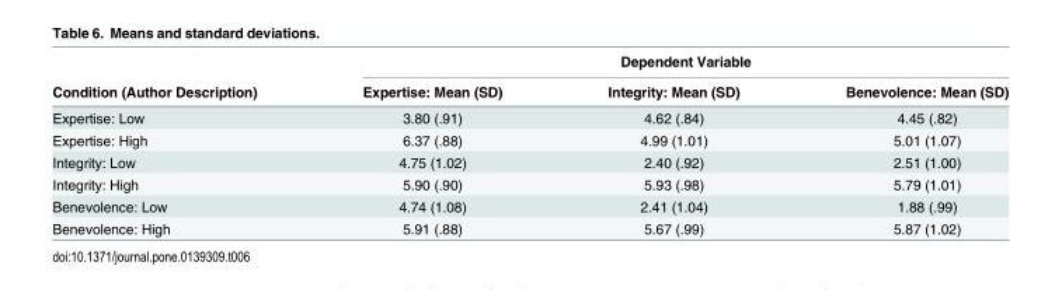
<table><thead><tr><td rowspan="2">Condition (Author Description)</td><td colspan="3">Dependent Variable</td></tr><tr><td>Expertise: Mean (SD)</td><td>Integrity: Mean (SD)</td><td>Benevolence: Mean (SD)</td></tr></thead><tbody><tr><td>Expertise: Low</td><td>3.80 (.91)</td><td>4.62 (.84)</td><td>4.45 (.82)</td></tr><tr><td>Expertise: High</td><td>6.37 (.88)</td><td>4.99 (1.01)</td><td>5.01 (1.07)</td></tr><tr><td>Integrity: Low</td><td>4.75 (1.02)</td><td>2.40 (.92)</td><td>2.51 (1.00)</td></tr><tr><td>Integrity: High</td><td>5.90 (.90)</td><td>5.93 (.98)</td><td>5.79 (1.01)</td></tr><tr><td>Benevolence: Low</td><td>4.74 (1.08)</td><td>2.41 (1.04)</td><td>1.88 (.99)</td></tr><tr><td>Benevolence: High</td><td>5.91 (.88)</td><td>5.67 (.99)</td><td>5.87 (1.02)</td></tr></tbody></table>